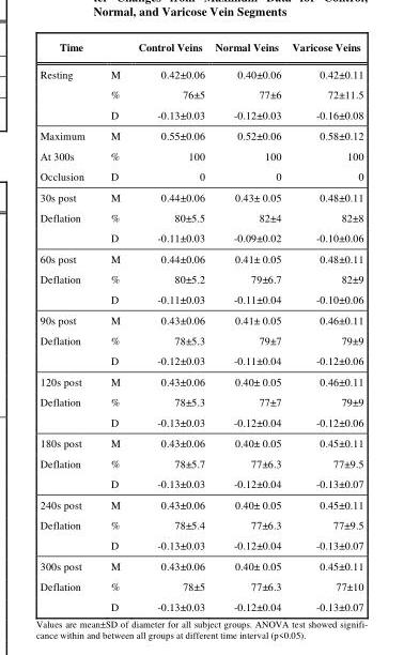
<table><thead><tr><td>Time</td><td></td><td>Control Veins</td><td>Normal Veins</td><td>Varicose Veins</td></tr></thead><tbody><tr><td rowspan="3">Resting</td><td>M</td><td>0.42±0.06</td><td>0.40±0.06</td><td>0.42±0.11</td></tr><tr><td>%</td><td>76±5</td><td>77±6</td><td>72±11.5</td></tr><tr><td>D</td><td>-0.13±0.03</td><td>-0.12±0.03</td><td>-0.16±0.08</td></tr><tr><td>Maximum</td><td>M</td><td>0.55±0.06</td><td>0.52±0.06</td><td>0.58±0.12</td></tr><tr><td>At 300s</td><td>%</td><td>100</td><td>100</td><td>100</td></tr><tr><td>Occlusion</td><td>D</td><td>0</td><td>0</td><td>0</td></tr><tr><td>30s post</td><td>M</td><td>0.44±0.06</td><td>0.43± 0.05</td><td>0.48±0.11</td></tr><tr><td rowspan="2">Deflation</td><td>%</td><td>80±5.5</td><td>82±4</td><td>82±8</td></tr><tr><td>D</td><td>-0.11±0.03</td><td>-0.09±0.02</td><td>-0.10±0.06</td></tr><tr><td>60s post</td><td>M</td><td>0.44±0.06</td><td>0.41± 0.05</td><td>0.48±0.11</td></tr><tr><td rowspan="2">Deflation</td><td>%</td><td>80±5.2</td><td>79±6.7</td><td>82±9</td></tr><tr><td>D</td><td>-0.11±0.03</td><td>-0.11±0.04</td><td>-0.10±0.06</td></tr><tr><td>90s post</td><td>M</td><td>0.43±0.06</td><td>0.41± 0.05</td><td>0.46±0.11</td></tr><tr><td rowspan="2">Deflation</td><td>%</td><td>78±5.3</td><td>79±7</td><td>79±9</td></tr><tr><td>D</td><td>-0.12±0.03</td><td>-0.11±0.04</td><td>-0.12±0.06</td></tr><tr><td>120s post</td><td>M</td><td>0.43±0.06</td><td>0.40± 0.05</td><td>0.46±0.11</td></tr><tr><td rowspan="2">Deflation</td><td>%</td><td>78±5.3</td><td>77±7</td><td>79±9</td></tr><tr><td>D</td><td>-0.13±0.03</td><td>-0.12±0.04</td><td>-0.12±0.06</td></tr><tr><td>180s post</td><td>M</td><td>0.43±0.06</td><td>0.40± 0.05</td><td>0.45±0.11</td></tr><tr><td rowspan="2">Deflation</td><td>%</td><td>78±5.7</td><td>77±6.3</td><td>77±9.5</td></tr><tr><td>D</td><td>-0.13±0.03</td><td>-0.12±0.04</td><td>-0.13±0.07</td></tr><tr><td>240s post</td><td>M</td><td>0.43±0.06</td><td>0.40± 0.05</td><td>0.45±0.11</td></tr><tr><td rowspan="2">Deflation</td><td>%</td><td>78±5.4</td><td>77±6.3</td><td>77±9.5</td></tr><tr><td>D</td><td>-0.13±0.03</td><td>-0.12±0.04</td><td>-0.13±0.07</td></tr><tr><td>300s post</td><td>M</td><td>0.43±0.06</td><td>0.40± 0.05</td><td>0.45±0.11</td></tr><tr><td rowspan="2">Deflation</td><td>%</td><td>78±5</td><td>77±6.3</td><td>77±10</td></tr><tr><td>D</td><td>-0.13±0.03</td><td>-0.12±0.04</td><td>-0.13±0.07</td></tr></tbody></table>